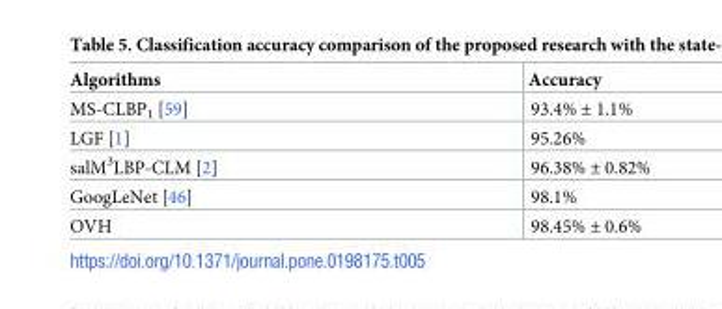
<table><thead><tr><td>Algorithms</td><td>Accuracy</td></tr></thead><tbody><tr><td>MS-CLBP<sub>1</sub> [59]</td><td>93.4% ± 1.1%</td></tr><tr><td>LGF [1]</td><td>95.26%</td></tr><tr><td>salM<sup>3</sup>LBP-CLM [2]</td><td>96.38% ± 0.82%</td></tr><tr><td>GoogLeNet [46]</td><td>98.1%</td></tr><tr><td>OVH</td><td>98.45% ± 0.6%</td></tr></tbody></table>